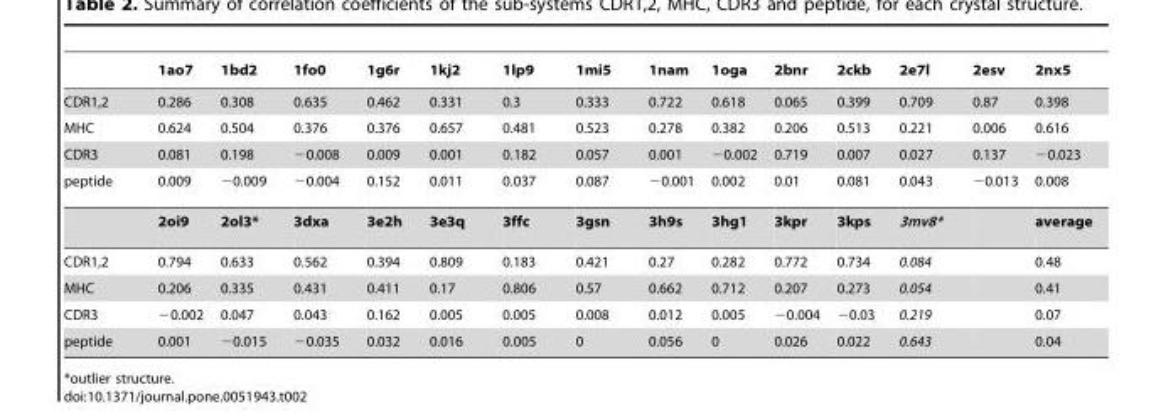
<table><thead><tr><td></td><td>1ao7</td><td>1bd2</td><td>1fo0</td><td>1g6r</td><td>1kj2</td><td>1lp9</td><td>1mi5</td><td>1nam</td><td>1oga</td><td>2bnr</td><td>2ckb</td><td>2e7l</td><td>2esv</td><td>2nx5</td></tr></thead><tbody><tr><td>CDR1,2</td><td>0.286</td><td>0.308</td><td>0.635</td><td>0.462</td><td>0.331</td><td>0.3</td><td>0.333</td><td>0.722</td><td>0.618</td><td>0.065</td><td>0.399</td><td>0.709</td><td>0.87</td><td>0.398</td></tr><tr><td>MHC</td><td>0.624</td><td>0.504</td><td>0.376</td><td>0.376</td><td>0.657</td><td>0.481</td><td>0.523</td><td>0.278</td><td>0.382</td><td>0.206</td><td>0.513</td><td>0.221</td><td>0.006</td><td>0.616</td></tr><tr><td>CDR3</td><td>0.081</td><td>0.198</td><td>−0.008</td><td>0.009</td><td>0.001</td><td>0.182</td><td>0.057</td><td>0.001</td><td>−0.002</td><td>0.719</td><td>0.007</td><td>0.027</td><td>0.137</td><td>−0.023</td></tr><tr><td rowspan="2">peptide</td><td>0.009</td><td>−0.009</td><td>−0.004</td><td>0.152</td><td>0.011</td><td>0.037</td><td>0.087</td><td>−0.001</td><td>0.002</td><td>0.01</td><td>0.081</td><td>0.043</td><td>−0.013</td><td>0.008</td></tr><tr><td>2oi9</td><td>2ol3*</td><td>3dxa</td><td>3e2h</td><td>3e3q</td><td>3ffc</td><td>3gsn</td><td>3h9s</td><td>3hg1</td><td>3kpr</td><td>3kps</td><td>3mv8*</td><td></td><td>average</td></tr><tr><td>CDR1,2</td><td>0.794</td><td>0.633</td><td>0.562</td><td>0.394</td><td>0.809</td><td>0.183</td><td>0.421</td><td>0.27</td><td>0.282</td><td>0.772</td><td>0.734</td><td>0.084</td><td></td><td>0.48</td></tr><tr><td>MHC</td><td>0.206</td><td>0.335</td><td>0.431</td><td>0.411</td><td>0.17</td><td>0.806</td><td>0.57</td><td>0.662</td><td>0.712</td><td>0.207</td><td>0.273</td><td>0.054</td><td></td><td>0.41</td></tr><tr><td>CDR3</td><td>−0.002</td><td>0.047</td><td>0.043</td><td>0.162</td><td>0.005</td><td>0.005</td><td>0.008</td><td>0.012</td><td>0.005</td><td>−0.004</td><td>−0.03</td><td>0.219</td><td></td><td>0.07</td></tr><tr><td>peptide</td><td>0.001</td><td>−0.015</td><td>−0.035</td><td>0.032</td><td>0.016</td><td>0.005</td><td>0</td><td>0.056</td><td>0</td><td>0.026</td><td>0.022</td><td>0.643</td><td></td><td>0.04</td></tr></tbody></table>